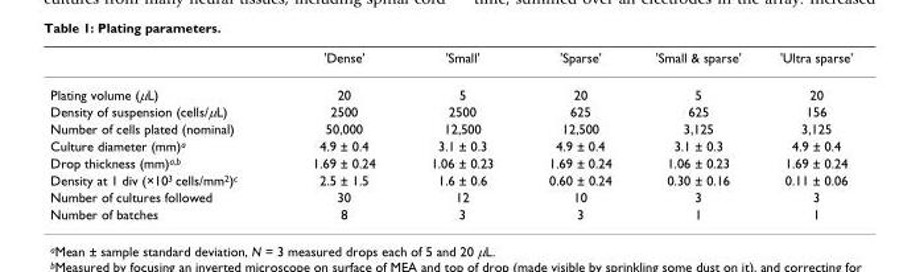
<table><thead><tr><td></td><td>&#x27;Dense&#x27;</td><td>&#x27;Small&#x27;</td><td>&#x27;Sparse&#x27;</td><td>&#x27;Small &amp; sparse&#x27;</td><td>&#x27;Ultra sparse&#x27;</td></tr></thead><tbody><tr><td>Plating volume (μL)</td><td>20</td><td>5</td><td>20</td><td>5</td><td>20</td></tr><tr><td>Density of suspension (cells/μL)</td><td>2500</td><td>2500</td><td>625</td><td>625</td><td>156</td></tr><tr><td>Number of cells plated (nominal)</td><td>50,000</td><td>12,500</td><td>12,500</td><td>3,125</td><td>3,125</td></tr><tr><td>Culture diameter (mm)<sup>a</sup></td><td>4.9 ± 0.4</td><td>3.1 ± 0.3</td><td>4.9 ± 0.4</td><td>3.1 ± 0.3</td><td>4.9 ± 0.4</td></tr><tr><td>Drop thickness (mm)<sup>a,b</sup></td><td>1.69 ± 0.24</td><td>1.06 ± 0.23</td><td>1.69 ± 0.24</td><td>1.06 ± 0.23</td><td>1.69 ± 0.24</td></tr><tr><td>Density at 1 div (×10<sup>3</sup> cells/mm<sup>2</sup>)<sup>c</sup></td><td>2.5 ± 1.5</td><td>1.6 ± 0.6</td><td>0.60 ± 0.24</td><td>0.30 ± 0.16</td><td>0.11 ± 0.06</td></tr><tr><td>Number of cultures followed</td><td>30</td><td>12</td><td>10</td><td>3</td><td>3</td></tr><tr><td>Number of batches</td><td>8</td><td>3</td><td>3</td><td>1</td><td>1</td></tr></tbody></table>